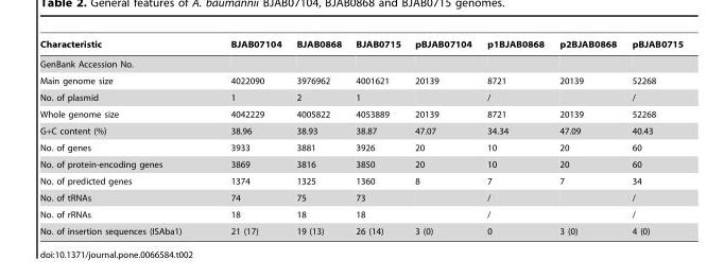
<table><thead><tr><td>Characteristic</td><td>BJAB07104</td><td>BJAB0868</td><td>BJAB0715</td><td>pBJAB07104</td><td>p1BJAB0868</td><td>p2BJAB0868</td><td>pBJAB0715</td></tr></thead><tbody><tr><td colspan="8">GenBank Accession No.</td></tr><tr><td>Main genome size</td><td>4022090</td><td>3976962</td><td>4001621</td><td>20139</td><td>8721</td><td>20139</td><td>52268</td></tr><tr><td>No. of plasmid</td><td>1</td><td>2</td><td>1</td><td></td><td>/</td><td></td><td>/</td></tr><tr><td>Whole genome size</td><td>4042229</td><td>4005822</td><td>4053889</td><td>20139</td><td>8721</td><td>20139</td><td>52268</td></tr><tr><td>G+C content (%)</td><td>38.96</td><td>38.93</td><td>38.87</td><td>47.07</td><td>34.34</td><td>47.09</td><td>40.43</td></tr><tr><td>No. of genes</td><td>3933</td><td>3881</td><td>3926</td><td>20</td><td>10</td><td>20</td><td>60</td></tr><tr><td>No. of protein-encoding genes</td><td>3869</td><td>3816</td><td>3850</td><td>20</td><td>10</td><td>20</td><td>60</td></tr><tr><td>No. of predicted genes</td><td>1374</td><td>1325</td><td>1360</td><td>8</td><td>7</td><td>7</td><td>34</td></tr><tr><td>No. of tRNAs</td><td>74</td><td>75</td><td>73</td><td></td><td>/</td><td></td><td>/</td></tr><tr><td>No. of rRNAs</td><td>18</td><td>18</td><td>18</td><td></td><td>/</td><td></td><td>/</td></tr><tr><td>No. of insertion sequences (ISAba1)</td><td>21 (17)</td><td>19 (13)</td><td>26 (14)</td><td>3 (0)</td><td>0</td><td>3 (0)</td><td>4 (0)</td></tr></tbody></table>